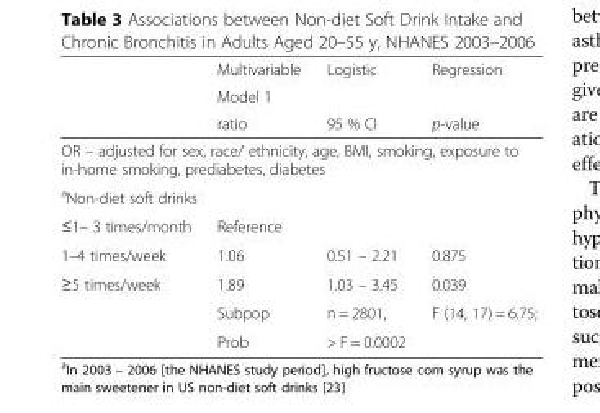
<table><thead><tr><td rowspan="3"></td><td rowspan="3">Multivariable Model 1 ratio</td><td rowspan="3">Logistic 95 % CI</td><td rowspan="3">Regression p-value</td></tr><tr></tr><tr></tr></thead><tbody><tr><td colspan="4">OR – adjusted for sex, race/ ethnicity, age, BMI, smoking, exposure to in-home smoking, prediabetes, diabetes</td></tr><tr><td colspan="4"><sup>a</sup>Non-diet soft drinks</td></tr><tr><td>≤1– 3 times/month</td><td>Reference</td><td></td><td></td></tr><tr><td>1–4 times/week</td><td>1.06</td><td>0.51 – 2.21</td><td>0.875</td></tr><tr><td rowspan="3">≥5 times/week</td><td>1.89</td><td>1.03 – 3.45</td><td>0.039</td></tr><tr><td>Subpop</td><td>n = 2801,</td><td>F (14, 17) = 6.75;</td></tr><tr><td>Prob</td><td>&gt; F = 0.0002</td><td></td></tr></tbody></table>